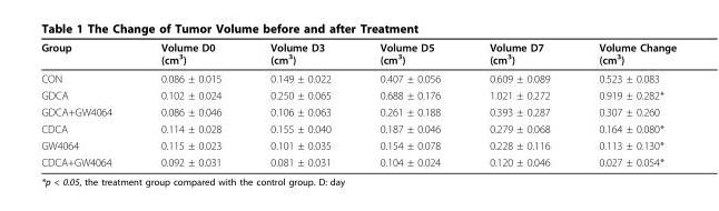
<table><thead><tr><td>Group</td><td>Volume D0 (cm<sup>3</sup>)</td><td>Volume D3 (cm<sup>3</sup>)</td><td>Volume D5 (cm<sup>3</sup>)</td><td>Volume D7 (cm<sup>3</sup>)</td><td>Volume Change (cm<sup>3</sup>)</td></tr></thead><tbody><tr><td>CON</td><td>0.086 ± 0.015</td><td>0.149 ± 0.022</td><td>0.407 ± 0.056</td><td>0.609 ± 0.089</td><td>0.523 ± 0.083</td></tr><tr><td>GDCA</td><td>0.102 ± 0.024</td><td>0.250 ± 0.065</td><td>0.688 ± 0.176</td><td>1.021 ± 0.272</td><td>0.919 ± 0.282*</td></tr><tr><td>GDCA+GW4064</td><td>0.086 ± 0.046</td><td>0.106 ± 0.063</td><td>0.261 ± 0.188</td><td>0.393 ± 0.287</td><td>0.307 ± 0.260</td></tr><tr><td>CDCA</td><td>0.114 ± 0.028</td><td>0.155 ± 0.040</td><td>0.187 ± 0.046</td><td>0.279 ± 0.068</td><td>0.164 ± 0.080*</td></tr><tr><td>GW4064</td><td>0.115 ± 0.023</td><td>0.101 ± 0.035</td><td>0.154 ± 0.078</td><td>0.228 ± 0.116</td><td>0.113 ± 0.130*</td></tr><tr><td>CDCA+GW4064</td><td>0.092 ± 0.031</td><td>0.081 ± 0.031</td><td>0.104 ± 0.024</td><td>0.120 ± 0.046</td><td>0.027 ± 0.054*</td></tr></tbody></table>